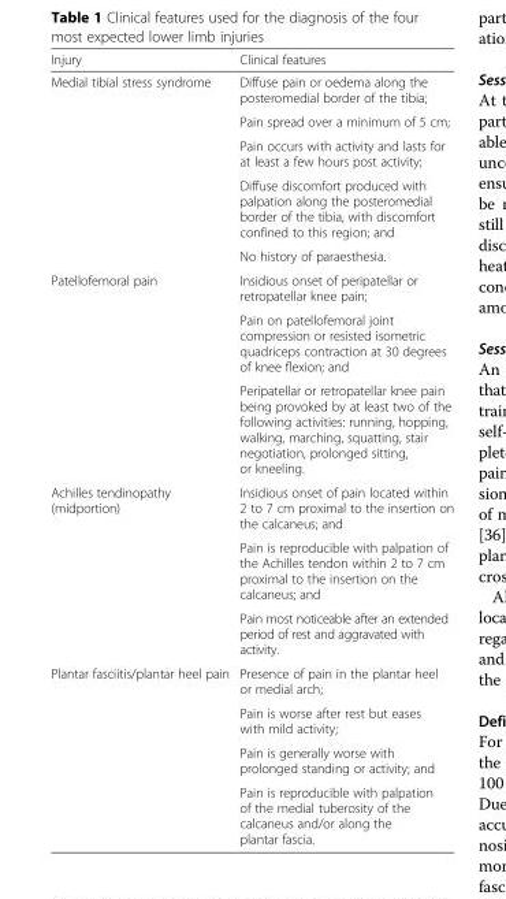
<table><thead><tr><td>Injury</td><td>Clinical features</td></tr></thead><tbody><tr><td rowspan="5">Medial tibial stress syndrome</td><td>Diffuse pain or oedema along the posteromedial border of the tibia;</td></tr><tr><td>Pain spread over a minimum of 5 cm;</td></tr><tr><td>Pain occurs with activity and lasts for at least a few hours post activity;</td></tr><tr><td>Diffuse discomfort produced with palpation along the posteromedial border of the tibia, with discomfort confined to this region; and</td></tr><tr><td>No history of paraesthesia.</td></tr><tr><td rowspan="3">Patellofemoral pain</td><td>Insidious onset of peripatellar or retropatellar knee pain;</td></tr><tr><td>Pain on patellofemoral joint compression or resisted isometric quadriceps contraction at 30 degrees of knee flexion; and</td></tr><tr><td>Peripatellar or retropatellar knee pain being provoked by at least two of the following activities: running, hopping, walking, marching, squatting, stair negotiation, prolonged sitting, or kneeling.</td></tr><tr><td rowspan="3">Achilles tendinopathy (midportion)</td><td>Insidious onset of pain located within 2 to 7 cm proximal to the insertion on the calcaneus; and</td></tr><tr><td>Pain is reproducible with palpation of the Achilles tendon within 2 to 7 cm proximal to the insertion on the calcaneus; and</td></tr><tr><td>Pain most noticeable after an extended period of rest and aggravated with activity.</td></tr><tr><td rowspan="4">Plantar fasciitis/plantar heel pain</td><td>Presence of pain in the plantar heel or medial arch;</td></tr><tr><td>Pain is worse after rest but eases with mild activity;</td></tr><tr><td>Pain is generally worse with prolonged standing or activity; and</td></tr><tr><td>Pain is reproducible with palpation of the medial tuberosity of the calcaneus and/or along the plantar fascia.</td></tr></tbody></table>